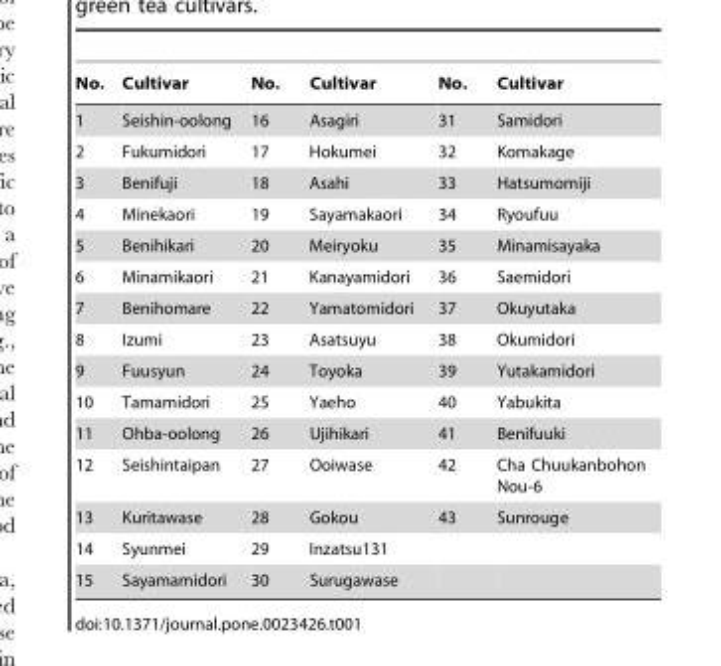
<table><thead><tr><td>No.</td><td>Cultivar</td><td>No.</td><td>Cultivar</td><td>No.</td><td>Cultivar</td></tr></thead><tbody><tr><td>1</td><td>Seishin-oolong</td><td>16</td><td>Asagiri</td><td>31</td><td>Samidori</td></tr><tr><td>2</td><td>Fukumidori</td><td>17</td><td>Hokumei</td><td>32</td><td>Komakage</td></tr><tr><td>3</td><td>Benifuji</td><td>18</td><td>Asahi</td><td>33</td><td>Hatsumomiji</td></tr><tr><td>4</td><td>Minekaori</td><td>19</td><td>Sayamakaori</td><td>34</td><td>Ryoufuu</td></tr><tr><td>5</td><td>Benihikari</td><td>20</td><td>Meiryoku</td><td>35</td><td>Minamisayaka</td></tr><tr><td>6</td><td>Minamikaori</td><td>21</td><td>Kanayamidori</td><td>36</td><td>Saemidori</td></tr><tr><td>7</td><td>Benihomare</td><td>22</td><td>Yamatomidori</td><td>37</td><td>Okuyutaka</td></tr><tr><td>8</td><td>Izumi</td><td>23</td><td>Asatsuyu</td><td>38</td><td>Okumidori</td></tr><tr><td>9</td><td>Fuusyun</td><td>24</td><td>Toyoka</td><td>39</td><td>Yutakamidori</td></tr><tr><td>10</td><td>Tamamidori</td><td>25</td><td>Yaeho</td><td>40</td><td>Yabukita</td></tr><tr><td>11</td><td>Ohba-oolong</td><td>26</td><td>Ujihikari</td><td>41</td><td>Benifuuki</td></tr><tr><td>12</td><td>Seishintaipan</td><td>27</td><td>Ooiwase</td><td>42</td><td>Cha Chuukanbohon Nou-6</td></tr><tr><td>13</td><td>Kuritawase</td><td>28</td><td>Gokou</td><td>43</td><td>Sunrouge</td></tr><tr><td>14</td><td>Syunmei</td><td>29</td><td>Inzatsu131</td><td></td><td></td></tr><tr><td>15</td><td>Sayamamidori</td><td>30</td><td>Surugawase</td><td></td><td></td></tr></tbody></table>